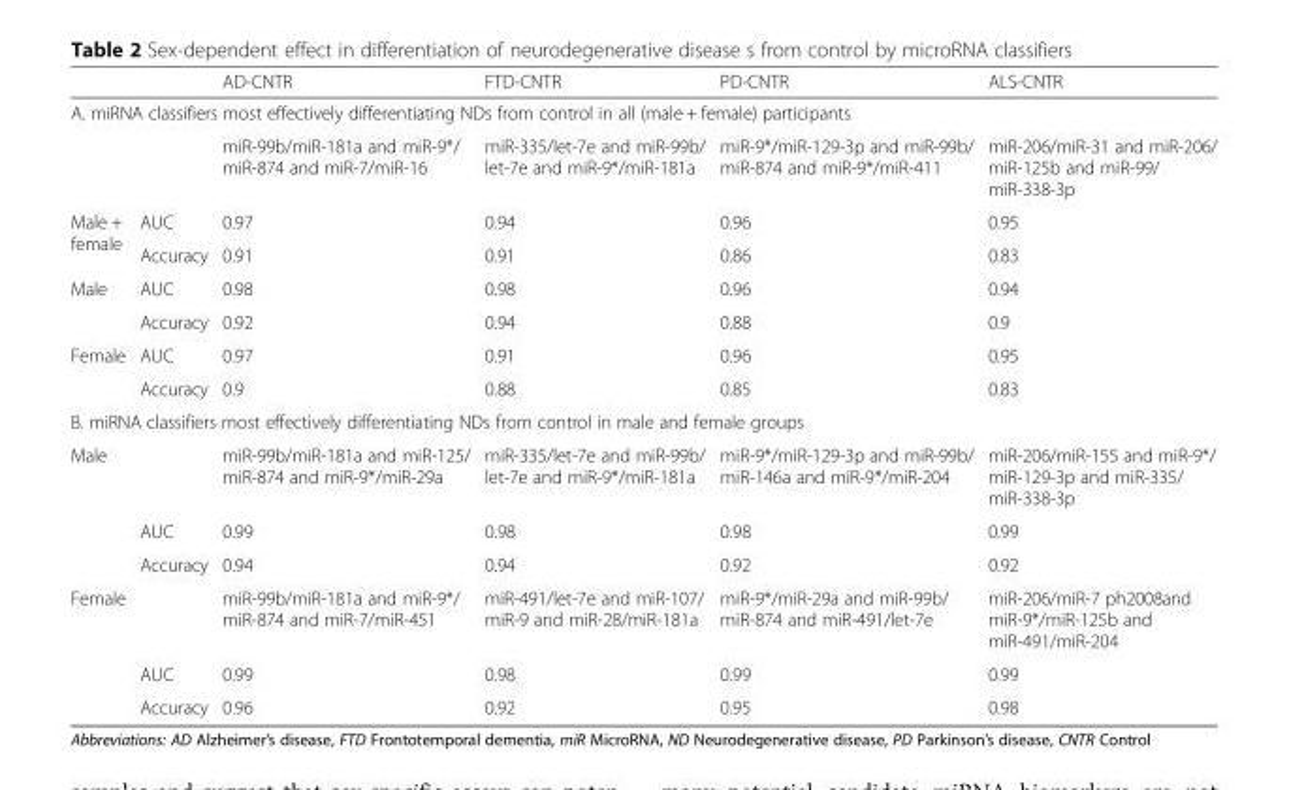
<table><thead><tr><td></td><td></td><td>AD-CNTR</td><td>FTD-CNTR</td><td>PD-CNTR</td><td>ALS-CNTR</td></tr></thead><tbody><tr><td colspan="6">A. miRNA classifiers most effectively differentiating NDs from control in all (male + female) participants</td></tr><tr><td></td><td></td><td>miR-99b/miR-181a and miR-9*/ miR-874 and miR-7/miR-16</td><td>miR-335/let-7e and miR-99b/ let-7e and miR-9*/miR-181a</td><td>miR-9*/miR-129-3p and miR-99b/ miR-874 and miR-9*/miR-411</td><td>miR-206/miR-31 and miR-206/ miR-125b and miR-99/ miR-338-3p</td></tr><tr><td rowspan="2">Male + female</td><td>AUC</td><td>0.97</td><td>0.94</td><td>0.96</td><td>0.95</td></tr><tr><td>Accuracy</td><td>0.91</td><td>0.91</td><td>0.86</td><td>0.83</td></tr><tr><td rowspan="2">Male</td><td>AUC</td><td>0.98</td><td>0.98</td><td>0.96</td><td>0.94</td></tr><tr><td>Accuracy</td><td>0.92</td><td>0.94</td><td>0.88</td><td>0.9</td></tr><tr><td rowspan="2">Female</td><td>AUC</td><td>0.97</td><td>0.91</td><td>0.96</td><td>0.95</td></tr><tr><td>Accuracy</td><td>0.9</td><td>0.88</td><td>0.85</td><td>0.83</td></tr><tr><td colspan="6">B. miRNA classifiers most effectively differentiating NDs from control in male and female groups</td></tr><tr><td rowspan="3">Male</td><td></td><td>miR-99b/miR-181a and miR-125/ miR-874 and miR-9*/miR-29a</td><td>miR-335/let-7e and miR-99b/ let-7e and miR-9*/miR-181a</td><td>miR-9*/miR-129-3p and miR-99b/ miR-146a and miR-9*/miR-204</td><td>miR-206/miR-155 and miR-9*/ miR-129-3p and miR-335/ miR-338-3p</td></tr><tr><td>AUC</td><td>0.99</td><td>0.98</td><td>0.98</td><td>0.99</td></tr><tr><td>Accuracy</td><td>0.94</td><td>0.94</td><td>0.92</td><td>0.92</td></tr><tr><td rowspan="3">Female</td><td></td><td>miR-99b/miR-181a and miR-9*/ miR-874 and miR-7/miR-451</td><td>miR-491/let-7e and miR-107/ miR-9 and miR-28/miR-181a</td><td>miR-9*/miR-29a and miR-99b/ miR-874 and miR-491/let-7e</td><td>miR-206/miR-7 ph2008and miR-9*/miR-125b and miR-491/miR-204</td></tr><tr><td>AUC</td><td>0.99</td><td>0.98</td><td>0.99</td><td>0.99</td></tr><tr><td>Accuracy</td><td>0.96</td><td>0.92</td><td>0.95</td><td>0.98</td></tr></tbody></table>